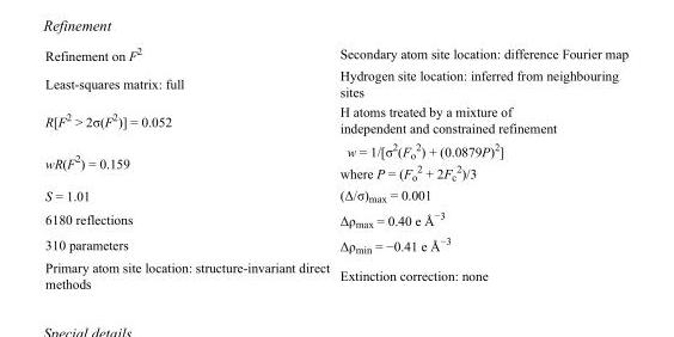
<table><tbody><tr><td>Refinement on F<sup>2</sup></td><td>Secondary atom site location: difference Fourier map</td></tr><tr><td>Least-squares matrix: full</td><td>Hydrogen site location: inferred from neighbouring sites</td></tr><tr><td>R[F<sup>2</sup> &gt; 2σ(F<sup>2</sup>)] = 0.052</td><td>H atoms treated by a mixture of independent and constrained refinement</td></tr><tr><td>wR(F<sup>2</sup>) = 0.159</td><td>w = 1/[σ<sup>2</sup>(F<sub>o</sub> <sup>2</sup>) + (0.0879P)<sup>2</sup>] where P = (F<sub>o</sub> <sup>2</sup> + 2F<sub>c</sub> <sup>2</sup>)/3</td></tr><tr><td>S = 1.01</td><td>(Δ/σ)<sub>max</sub> = 0.001</td></tr><tr><td>6180 reflections</td><td>Δρ<sub>max</sub> = 0.40 e Å<sup>−3</sup></td></tr><tr><td>310 parameters</td><td>Δρ<sub>min</sub> = −0.41 e Å<sup>−3</sup></td></tr><tr><td>Primary atom site location: structure-invariant direct methods</td><td>Extinction correction: none</td></tr></tbody></table>